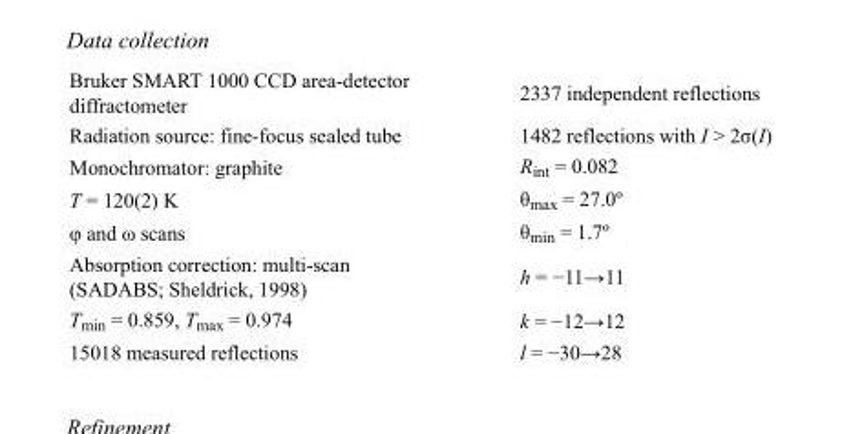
<table><tbody><tr><td>Bruker SMART 1000 CCD area-detector diffractometer</td><td>2337 independent reflections</td></tr><tr><td>Radiation source: fine-focus sealed tube</td><td>1482 reflections with I &gt; 2σ(I)</td></tr><tr><td>Monochromator: graphite</td><td>R<sub>int</sub> = 0.082</td></tr><tr><td>T = 120(2) K</td><td>θ<sub>max</sub> = 27.0º</td></tr><tr><td>φ and ω scans</td><td>θ<sub>min</sub> = 1.7º</td></tr><tr><td>Absorption correction: multi-scan (SADABS; Sheldrick, 1998)</td><td>h = −11→11</td></tr><tr><td>T<sub>min</sub> = 0.859, T<sub>max</sub> = 0.974</td><td>k = −12→12</td></tr><tr><td>15018 measured reflections</td><td>l = −30→28</td></tr></tbody></table>